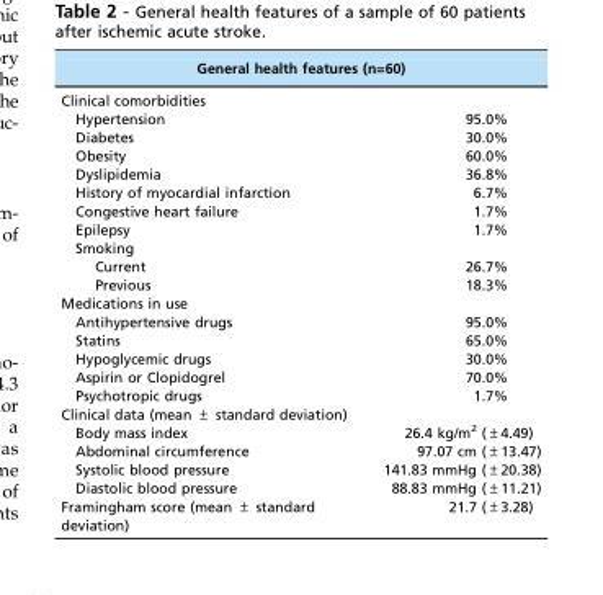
<table><thead><tr><td colspan="2">General health features (n=60)</td></tr><tr><td>Clinical comorbidities</td><td></td></tr></thead><tbody><tr><td>Hypertension</td><td>95.0%</td></tr><tr><td>Diabetes</td><td>30.0%</td></tr><tr><td>Obesity</td><td>60.0%</td></tr><tr><td>Dyslipidemia</td><td>36.8%</td></tr><tr><td>History of myocardial infarction</td><td>6.7%</td></tr><tr><td>Congestive heart failure</td><td>1.7%</td></tr><tr><td>Epilepsy</td><td>1.7%</td></tr><tr><td colspan="2">Smoking</td></tr><tr><td>Current</td><td>26.7%</td></tr><tr><td>Previous</td><td>18.3%</td></tr><tr><td colspan="2">Medications in use</td></tr><tr><td>Antihypertensive drugs</td><td>95.0%</td></tr><tr><td>Statins</td><td>65.0%</td></tr><tr><td>Hypoglycemic drugs</td><td>30.0%</td></tr><tr><td>Aspirin or Clopidogrel</td><td>70.0%</td></tr><tr><td>Psychotropic drugs</td><td>1.7%</td></tr><tr><td colspan="2">Clinical data (mean ± standard deviation)</td></tr><tr><td>Body mass index</td><td>26.4 kg/m2 (±4.49)</td></tr><tr><td>Abdominal circumference</td><td>97.07 cm (±13.47)</td></tr><tr><td>Systolic blood pressure</td><td>141.83 mmHg (±20.38)</td></tr><tr><td>Diastolic blood pressure</td><td>88.83 mmHg (±11.21)</td></tr><tr><td>Framingham score (mean ± standard deviation)</td><td>21.7 (±3.28)</td></tr></tbody></table>